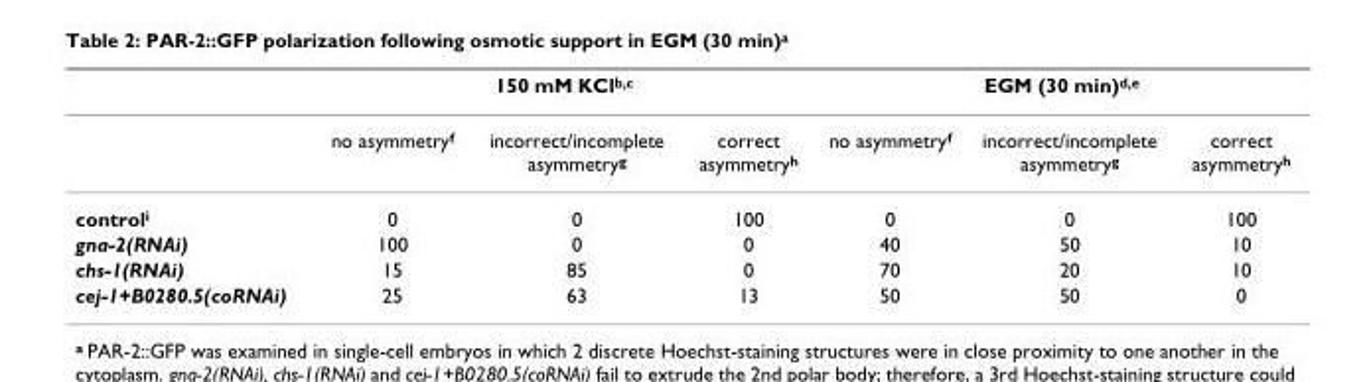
<table><thead><tr><td rowspan="2"></td><td colspan="3">150 mM KCl<sup>b,c</sup></td><td colspan="3">EGM (30 min)<sup>d,e</sup></td></tr><tr><td>no asymmetry<sup>f</sup></td><td>incorrect/incomplete asymmetry<sup>g</sup></td><td>correct asymmetry<sup>h</sup></td><td>no asymmetry<sup>f</sup></td><td>incorrect/incomplete asymmetry<sup>g</sup></td><td>correct asymmetry<sup>h</sup></td></tr></thead><tbody><tr><td>control<sup>i</sup></td><td>0</td><td>0</td><td>100</td><td>0</td><td>0</td><td>100</td></tr><tr><td>gna-2(RNAi)</td><td>100</td><td>0</td><td>0</td><td>40</td><td>50</td><td>10</td></tr><tr><td>chs-1(RNAi)</td><td>15</td><td>85</td><td>0</td><td>70</td><td>20</td><td>10</td></tr><tr><td>cej-1+B0280.5(coRNAi)</td><td>25</td><td>63</td><td>13</td><td>50</td><td>50</td><td>0</td></tr></tbody></table>